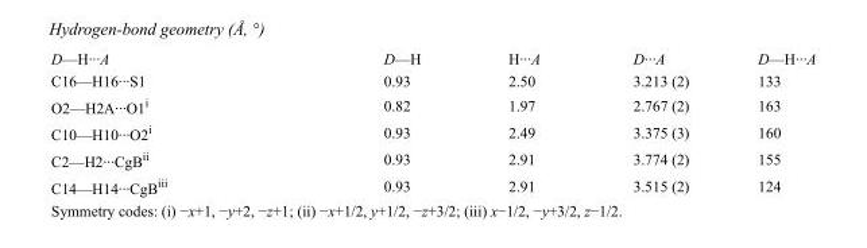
<table><tbody><tr><td>D—H···A</td><td>D—H</td><td>H···A</td><td>D···A</td><td>D—H···A</td></tr><tr><td>C16—H16···S1</td><td>0.93</td><td>2.50</td><td>3.213 (2)</td><td>133</td></tr><tr><td>O2—H2A···O1<sup>i</sup></td><td>0.82</td><td>1.97</td><td>2.767 (2)</td><td>163</td></tr><tr><td>C10—H10···O2<sup>i</sup></td><td>0.93</td><td>2.49</td><td>3.375 (3)</td><td>160</td></tr><tr><td>C2—H2···CgB<sup>ii</sup></td><td>0.93</td><td>2.91</td><td>3.774 (2)</td><td>155</td></tr><tr><td>C14—H14···CgB<sup>iii</sup></td><td>0.93</td><td>2.91</td><td>3.515 (2)</td><td>124</td></tr></tbody></table>